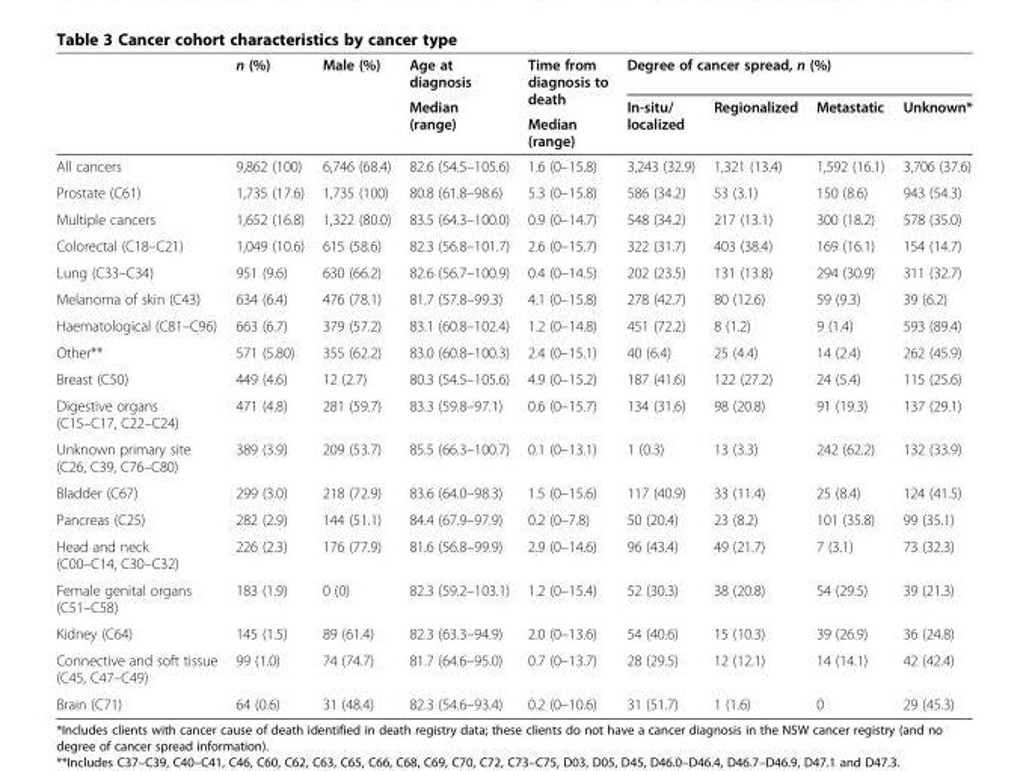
<table><thead><tr><td rowspan="3"></td><td rowspan="3">n (%)</td><td rowspan="3">Male (%)</td><td rowspan="3">Age at diagnosis Median (range)</td><td rowspan="3">Time from diagnosis to death Median (range)</td><td colspan="4">Degree of cancer spread, n (%)</td></tr><tr><td rowspan="2">In-situ/ localized</td><td rowspan="2">Regionalized</td><td rowspan="2">Metastatic</td><td rowspan="2">Unknown*</td></tr><tr></tr></thead><tbody><tr><td>All cancers</td><td>9,862 (100)</td><td>6,746 (68.4)</td><td>82.6 (54.5–105.6)</td><td>1.6 (0–15.8)</td><td>3,243 (32.9)</td><td>1,321 (13.4)</td><td>1,592 (16.1)</td><td>3,706 (37.6)</td></tr><tr><td>Prostate (C61)</td><td>1,735 (17.6)</td><td>1,735 (100)</td><td>80.8 (61.8–98.6)</td><td>5.3 (0–15.8)</td><td>586 (34.2)</td><td>53 (3.1)</td><td>150 (8.6)</td><td>943 (54.3)</td></tr><tr><td>Multiple cancers</td><td>1,652 (16.8)</td><td>1,322 (80.0)</td><td>83.5 (64.3–100.0)</td><td>0.9 (0–14.7)</td><td>548 (34.2)</td><td>217 (13.1)</td><td>300 (18.2)</td><td>578 (35.0)</td></tr><tr><td>Colorectal (C18–C21)</td><td>1,049 (10.6)</td><td>615 (58.6)</td><td>82.3 (56.8–101.7)</td><td>2.6 (0–15.7)</td><td>322 (31.7)</td><td>403 (38.4)</td><td>169 (16.1)</td><td>154 (14.7)</td></tr><tr><td>Lung (C33–C34)</td><td>951 (9.6)</td><td>630 (66.2)</td><td>82.6 (56.7–100.9)</td><td>0.4 (0–14.5)</td><td>202 (23.5)</td><td>131 (13.8)</td><td>294 (30.9)</td><td>311 (32.7)</td></tr><tr><td>Melanoma of skin (C43)</td><td>634 (6.4)</td><td>476 (78.1)</td><td>81.7 (57.8–99.3)</td><td>4.1 (0–15.8)</td><td>278 (42.7)</td><td>80 (12.6)</td><td>59 (9.3)</td><td>39 (6.2)</td></tr><tr><td>Haematological (C81–C96)</td><td>663 (6.7)</td><td>379 (57.2)</td><td>83.1 (60.8–102.4)</td><td>1.2 (0–14.8)</td><td>451 (72.2)</td><td>8 (1.2)</td><td>9 (1.4)</td><td>593 (89.4)</td></tr><tr><td>Other**</td><td>571 (5.80)</td><td>355 (62.2)</td><td>83.0 (60.8–100.3)</td><td>2.4 (0–15.1)</td><td>40 (6.4)</td><td>25 (4.4)</td><td>14 (2.4)</td><td>262 (45.9)</td></tr><tr><td>Breast (C50)</td><td>449 (4.6)</td><td>12 (2.7)</td><td>80.3 (54.5–105.6)</td><td>4.9 (0–15.2)</td><td>187 (41.6)</td><td>122 (27.2)</td><td>24 (5.4)</td><td>115 (25.6)</td></tr><tr><td>Digestive organs (C15–C17, C22–C24)</td><td>471 (4.8)</td><td>281 (59.7)</td><td>83.3 (59.8–97.1)</td><td>0.6 (0–15.7)</td><td>134 (31.6)</td><td>98 (20.8)</td><td>91 (19.3)</td><td>137 (29.1)</td></tr><tr><td>Unknown primary site (C26, C39, C76–C80)</td><td>389 (3.9)</td><td>209 (53.7)</td><td>85.5 (66.3–100.7)</td><td>0.1 (0–13.1)</td><td>1 (0.3)</td><td>13 (3.3)</td><td>242 (62.2)</td><td>132 (33.9)</td></tr><tr><td>Bladder (C67)</td><td>299 (3.0)</td><td>218 (72.9)</td><td>83.6 (64.0–98.3)</td><td>1.5 (0–15.6)</td><td>117 (40.9)</td><td>33 (11.4)</td><td>25 (8.4)</td><td>124 (41.5)</td></tr><tr><td>Pancreas (C25)</td><td>282 (2.9)</td><td>144 (51.1)</td><td>84.4 (67.9–97.9)</td><td>0.2 (0–7.8)</td><td>50 (20.4)</td><td>23 (8.2)</td><td>101 (35.8)</td><td>99 (35.1)</td></tr><tr><td>Head and neck (C00–C14, C30–C32)</td><td>226 (2.3)</td><td>176 (77.9)</td><td>81.6 (56.8–99.9)</td><td>2.9 (0–14.6)</td><td>96 (43.4)</td><td>49 (21.7)</td><td>7 (3.1)</td><td>73 (32.3)</td></tr><tr><td>Female genital organs (C51–C58)</td><td>183 (1.9)</td><td>0 (0)</td><td>82.3 (59.2–103.1)</td><td>1.2 (0–15.4)</td><td>52 (30.3)</td><td>38 (20.8)</td><td>54 (29.5)</td><td>39 (21.3)</td></tr><tr><td>Kidney (C64)</td><td>145 (1.5)</td><td>89 (61.4)</td><td>82.3 (63.3–94.9)</td><td>2.0 (0–13.6)</td><td>54 (40.6)</td><td>15 (10.3)</td><td>39 (26.9)</td><td>36 (24.8)</td></tr><tr><td>Connective and soft tissue (C45, C47–C49)</td><td>99 (1.0)</td><td>74 (74.7)</td><td>81.7 (64.6–95.0)</td><td>0.7 (0–13.7)</td><td>28 (29.5)</td><td>12 (12.1)</td><td>14 (14.1)</td><td>42 (42.4)</td></tr><tr><td>Brain (C71)</td><td>64 (0.6)</td><td>31 (48.4)</td><td>82.3 (54.6–93.4)</td><td>0.2 (0–10.6)</td><td>31 (51.7)</td><td>1 (1.6)</td><td>0</td><td>29 (45.3)</td></tr></tbody></table>